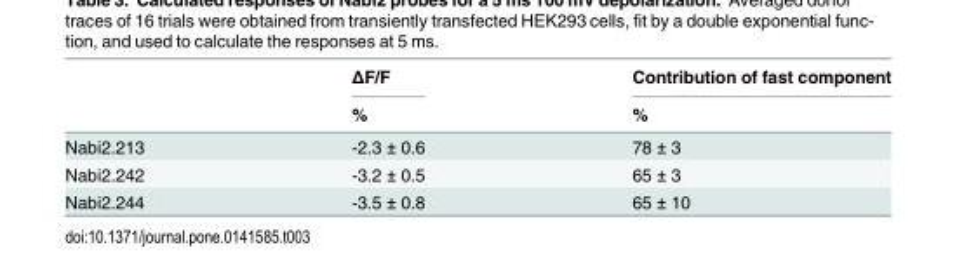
<table><thead><tr><td rowspan="2"></td><td rowspan="2">ΔF/F %</td><td rowspan="2">Contribution of fast component %</td></tr><tr></tr></thead><tbody><tr><td>Nabi2.213</td><td>-2.3 ± 0.6</td><td>78 ± 3</td></tr><tr><td>Nabi2.242</td><td>-3.2 ± 0.5</td><td>65 ± 3</td></tr><tr><td>Nabi2.244</td><td>-3.5 ± 0.8</td><td>65 ± 10</td></tr></tbody></table>